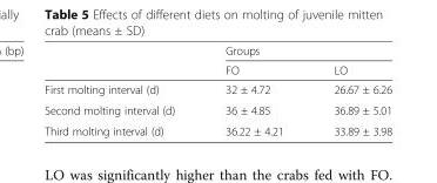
<table><thead><tr><td rowspan="2"></td><td colspan="2">Groups</td></tr><tr><td>FO</td><td>LO</td></tr></thead><tbody><tr><td>First molting interval (d)</td><td>32 ± 4.72</td><td>26.67 ± 6.26</td></tr><tr><td>Second molting interval (d)</td><td>36 ± 4.85</td><td>36.89 ± 5.01</td></tr><tr><td>Third molting interval (d)</td><td>36.22 ± 4.21</td><td>33.89 ± 3.98</td></tr></tbody></table>